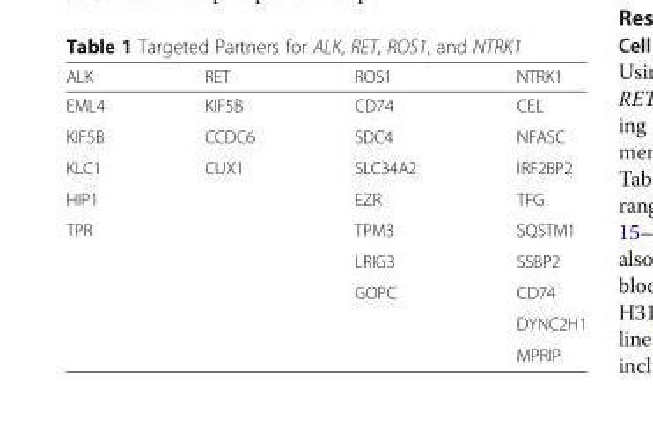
<table><thead><tr><td>ALK</td><td>RET</td><td>ROS1</td><td>NTRK1</td></tr></thead><tbody><tr><td>EML4</td><td>KIF5B</td><td>CD74</td><td>CEL</td></tr><tr><td>KIF5B</td><td>CCDC6</td><td>SDC4</td><td>NFASC</td></tr><tr><td>KLC1</td><td>CUX1</td><td>SLC34A2</td><td>IRF2BP2</td></tr><tr><td>HIP1</td><td></td><td>EZR</td><td>TFG</td></tr><tr><td rowspan="5">TPR</td><td></td><td>TPM3</td><td>SQSTM1</td></tr><tr><td></td><td>LRIG3</td><td>SSBP2</td></tr><tr><td></td><td>GOPC</td><td>CD74</td></tr><tr><td></td><td></td><td>DYNC2H1</td></tr><tr><td></td><td></td><td>MPRIP</td></tr></tbody></table>